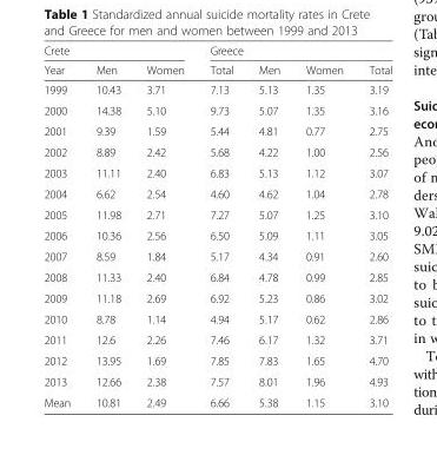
<table><thead><tr><td colspan="3">Crete</td><td colspan="4">Greece</td></tr><tr><td>Year</td><td>Men</td><td>Women</td><td>Total</td><td>Men</td><td>Women</td><td>Total</td></tr></thead><tbody><tr><td>1999</td><td>10.43</td><td>3.71</td><td>7.13</td><td>5.13</td><td>1.35</td><td>3.19</td></tr><tr><td>2000</td><td>14.38</td><td>5.10</td><td>9.73</td><td>5.07</td><td>1.35</td><td>3.16</td></tr><tr><td>2001</td><td>9.39</td><td>1.59</td><td>5.44</td><td>4.81</td><td>0.77</td><td>2.75</td></tr><tr><td>2002</td><td>8.89</td><td>2.42</td><td>5.68</td><td>4.22</td><td>1.00</td><td>2.56</td></tr><tr><td>2003</td><td>11.11</td><td>2.40</td><td>6.83</td><td>5.13</td><td>1.12</td><td>3.07</td></tr><tr><td>2004</td><td>6.62</td><td>2.54</td><td>4.60</td><td>4.62</td><td>1.04</td><td>2.78</td></tr><tr><td>2005</td><td>11.98</td><td>2.71</td><td>7.27</td><td>5.07</td><td>1.25</td><td>3.10</td></tr><tr><td>2006</td><td>10.36</td><td>2.56</td><td>6.50</td><td>5.09</td><td>1.11</td><td>3.05</td></tr><tr><td>2007</td><td>8.59</td><td>1.84</td><td>5.17</td><td>4.34</td><td>0.91</td><td>2.60</td></tr><tr><td>2008</td><td>11.33</td><td>2.40</td><td>6.84</td><td>4.78</td><td>0.99</td><td>2.85</td></tr><tr><td>2009</td><td>11.18</td><td>2.69</td><td>6.92</td><td>5.23</td><td>0.86</td><td>3.02</td></tr><tr><td>2010</td><td>8.78</td><td>1.14</td><td>4.94</td><td>5.17</td><td>0.62</td><td>2.86</td></tr><tr><td>2011</td><td>12.6</td><td>2.26</td><td>7.46</td><td>6.17</td><td>1.32</td><td>3.71</td></tr><tr><td>2012</td><td>13.95</td><td>1.69</td><td>7.85</td><td>7.83</td><td>1.65</td><td>4.70</td></tr><tr><td>2013</td><td>12.66</td><td>2.38</td><td>7.57</td><td>8.01</td><td>1.96</td><td>4.93</td></tr><tr><td>Mean</td><td>10.81</td><td>2.49</td><td>6.66</td><td>5.38</td><td>1.15</td><td>3.10</td></tr></tbody></table>